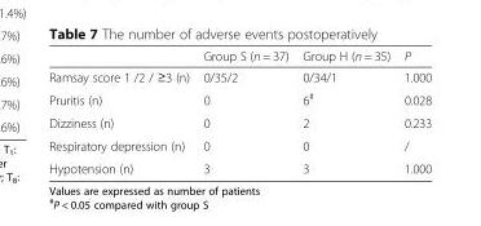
<table><thead><tr><td></td><td>Group S (n = 37)</td><td>Group H (n = 35)</td><td>P</td></tr></thead><tbody><tr><td>Ramsay score 1 /2 / ≥3 (n)</td><td>0/35/2</td><td>0/34/1</td><td>1.000</td></tr><tr><td>Pruritis (n)</td><td>0</td><td>6<sup>#</sup></td><td>0.028</td></tr><tr><td>Dizziness (n)</td><td>0</td><td>2</td><td>0.233</td></tr><tr><td>Respiratory depression (n)</td><td>0</td><td>0</td><td>/</td></tr><tr><td>Hypotension (n)</td><td>3</td><td>3</td><td>1.000</td></tr></tbody></table>